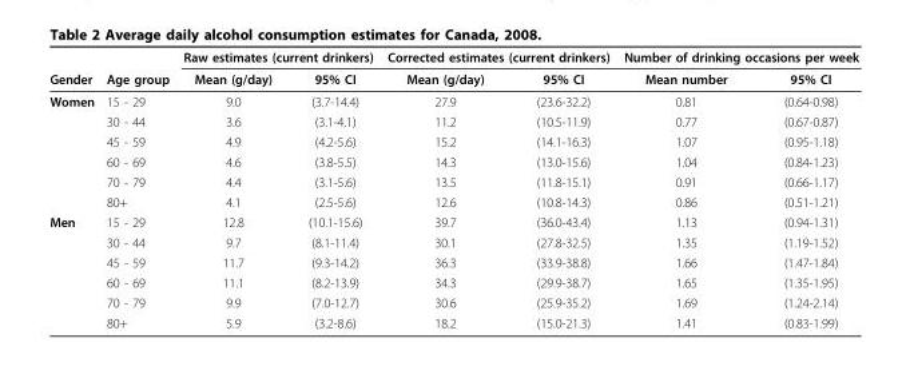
<table><thead><tr><td rowspan="2">Gender</td><td rowspan="2">Age group</td><td colspan="2">Raw estimates (current drinkers)</td><td colspan="2">Corrected estimates (current drinkers)</td><td colspan="2">Number of drinking occasions per week</td></tr><tr><td>Mean (g/day)</td><td>95% CI</td><td>Mean (g/day)</td><td>95% CI</td><td>Mean number</td><td>95% CI</td></tr></thead><tbody><tr><td rowspan="6">Women</td><td>15 - 29</td><td>9.0</td><td>(3.7-14.4)</td><td>27.9</td><td>(23.6-32.2)</td><td>0.81</td><td>(0.64-0.98)</td></tr><tr><td>30 - 44</td><td>3.6</td><td>(3.1-4.1)</td><td>11.2</td><td>(10.5-11.9)</td><td>0.77</td><td>(0.67-0.87)</td></tr><tr><td>45 - 59</td><td>4.9</td><td>(4.2-5.6)</td><td>15.2</td><td>(14.1-16.3)</td><td>1.07</td><td>(0.95-1.18)</td></tr><tr><td>60 - 69</td><td>4.6</td><td>(3.8-5.5)</td><td>14.3</td><td>(13.0-15.6)</td><td>1.04</td><td>(0.84-1.23)</td></tr><tr><td>70 - 79</td><td>4.4</td><td>(3.1-5.6)</td><td>13.5</td><td>(11.8-15.1)</td><td>0.91</td><td>(0.66-1.17)</td></tr><tr><td>80+</td><td>4.1</td><td>(2.5-5.6)</td><td>12.6</td><td>(10.8-14.3)</td><td>0.86</td><td>(0.51-1.21)</td></tr><tr><td rowspan="6">Men</td><td>15 - 29</td><td>12.8</td><td>(10.1-15.6)</td><td>39.7</td><td>(36.0-43.4)</td><td>1.13</td><td>(0.94-1.31)</td></tr><tr><td>30 - 44</td><td>9.7</td><td>(8.1-11.4)</td><td>30.1</td><td>(27.8-32.5)</td><td>1.35</td><td>(1.19-1.52)</td></tr><tr><td>45 - 59</td><td>11.7</td><td>(9.3-14.2)</td><td>36.3</td><td>(33.9-38.8)</td><td>1.66</td><td>(1.47-1.84)</td></tr><tr><td>60 - 69</td><td>11.1</td><td>(8.2-13.9)</td><td>34.3</td><td>(29.9-38.7)</td><td>1.65</td><td>(1.35-1.95)</td></tr><tr><td>70 - 79</td><td>9.9</td><td>(7.0-12.7)</td><td>30.6</td><td>(25.9-35.2)</td><td>1.69</td><td>(1.24-2.14)</td></tr><tr><td>80+</td><td>5.9</td><td>(3.2-8.6)</td><td>18.2</td><td>(15.0-21.3)</td><td>1.41</td><td>(0.83-1.99)</td></tr></tbody></table>